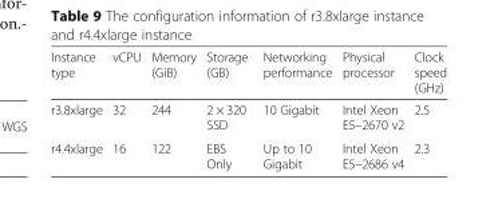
<table><thead><tr><td>Instance type</td><td>vCPU</td><td>Memory (GiB)</td><td>Storage (GB)</td><td>Networking performance</td><td>Physical processor</td><td>Clock speed (GHz)</td></tr></thead><tbody><tr><td>r3.8xlarge</td><td>32</td><td>244</td><td>2 × 320 SSD</td><td>10 Gigabit</td><td>Intel Xeon E5–2670 v2</td><td>2.5</td></tr><tr><td>r4.4xlarge</td><td>16</td><td>122</td><td>EBS Only</td><td>Up to 10 Gigabit</td><td>Intel Xeon E5–2686 v4</td><td>2.3</td></tr></tbody></table>